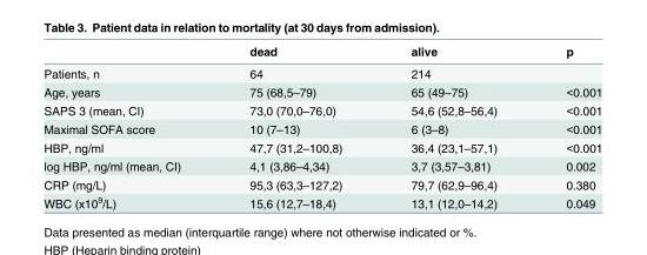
<table><thead><tr><td></td><td>dead</td><td>alive</td><td>p</td></tr></thead><tbody><tr><td>Patients, n</td><td>64</td><td>214</td><td></td></tr><tr><td>Age, years</td><td>75 (68,5–79)</td><td>65 (49–75)</td><td>&lt;0.001</td></tr><tr><td>SAPS 3 (mean, CI)</td><td>73,0 (70,0–76,0)</td><td>54,6 (52,8–56,4)</td><td>&lt;0.001</td></tr><tr><td>Maximal SOFA score</td><td>10 (7–13)</td><td>6 (3–8)</td><td>&lt;0.001</td></tr><tr><td>HBP, ng/ml</td><td>47,7 (31,2–100,8)</td><td>36,4 (23,1–57,1)</td><td>&lt;0.001</td></tr><tr><td>log HBP, ng/ml (mean, CI)</td><td>4,1 (3,86–4,34)</td><td>3,7 (3,57–3,81)</td><td>0.002</td></tr><tr><td>CRP (mg/L)</td><td>95,3 (63,3–127,2)</td><td>79,7 (62,9–96,4)</td><td>0.380</td></tr><tr><td>WBC (x10<sup>9</sup>/L)</td><td>15,6 (12,7–18,4)</td><td>13,1 (12,0–14,2)</td><td>0.049</td></tr></tbody></table>